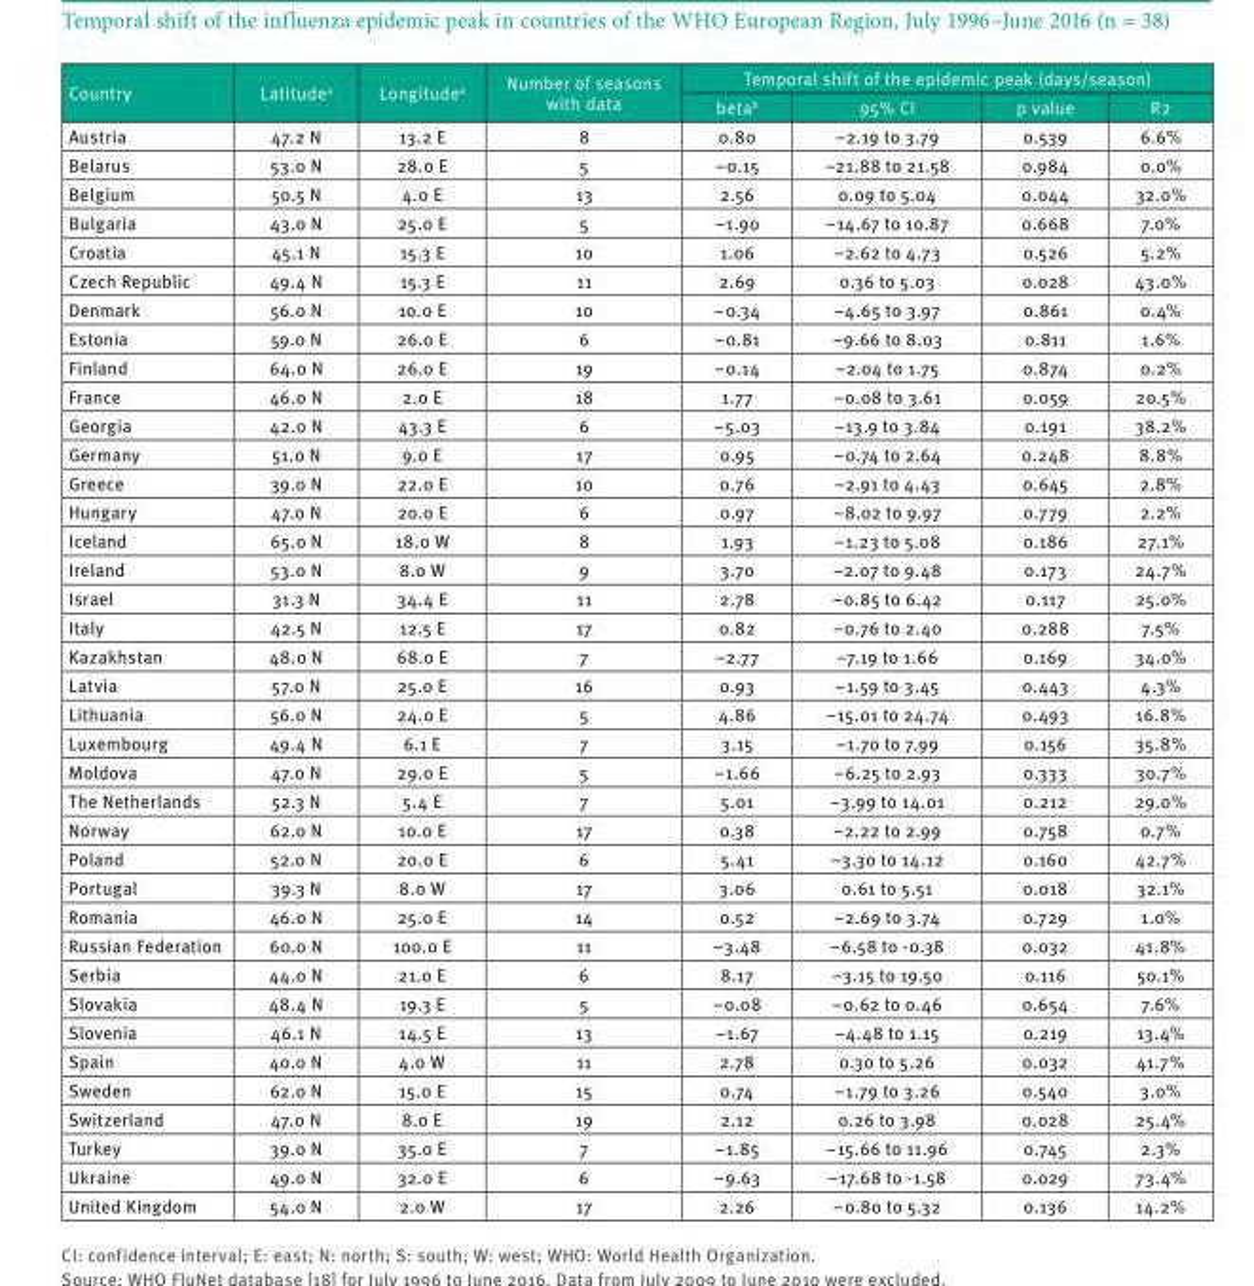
<table><thead><tr><td rowspan="2">Country</td><td rowspan="2">Latitude<sup>a</sup></td><td rowspan="2">Longitude<sup>a</sup></td><td rowspan="2">Number of seasons with data</td><td colspan="4">Temporal shift of the epidemic peak (days/season)</td></tr><tr><td>beta<sup>b</sup></td><td>95% CI</td><td>p value</td><td>R2</td></tr></thead><tbody><tr><td>Austria</td><td>47.2 N</td><td>13.2 E</td><td>8</td><td>0.80</td><td>−2.19 to 3.79</td><td>0.539</td><td>6.6%</td></tr><tr><td>Belarus</td><td>53.0 N</td><td>28.0 E</td><td>5</td><td>−0.15</td><td>−21.88 to 21.58</td><td>0.984</td><td>0.0%</td></tr><tr><td>Belgium</td><td>50.5 N</td><td>4.0 E</td><td>13</td><td>2.56</td><td>0.09 to 5.04</td><td>0.044</td><td>32.0%</td></tr><tr><td>Bulgaria</td><td>43.0 N</td><td>25.0 E</td><td>5</td><td>−1.90</td><td>−14.67 to 10.87</td><td>0.668</td><td>7.0%</td></tr><tr><td>Croatia</td><td>45.1 N</td><td>15.3 E</td><td>10</td><td>1.06</td><td>−2.62 to 4.73</td><td>0.526</td><td>5.2%</td></tr><tr><td>Czech Republic</td><td>49.4 N</td><td>15.3 E</td><td>11</td><td>2.69</td><td>0.36 to 5.03</td><td>0.028</td><td>43.0%</td></tr><tr><td>Denmark</td><td>56.0 N</td><td>10.0 E</td><td>10</td><td>−0.34</td><td>−4.65 to 3.97</td><td>0.861</td><td>0.4%</td></tr><tr><td>Estonia</td><td>59.0 N</td><td>26.0 E</td><td>6</td><td>−0.81</td><td>−9.66 to 8.03</td><td>0.811</td><td>1.6%</td></tr><tr><td>Finland</td><td>64.0 N</td><td>26.0 E</td><td>19</td><td>−0.14</td><td>−2.04 to 1.75</td><td>0.874</td><td>0.2%</td></tr><tr><td>France</td><td>46.0 N</td><td>2.0 E</td><td>18</td><td>1.77</td><td>−0.08 to 3.61</td><td>0.059</td><td>20.5%</td></tr><tr><td>Georgia</td><td>42.0 N</td><td>43.3 E</td><td>6</td><td>−5.03</td><td>−13.9 to 3.84</td><td>0.191</td><td>38.2%</td></tr><tr><td>Germany</td><td>51.0 N</td><td>9.0 E</td><td>17</td><td>0.95</td><td>−0.74 to 2.64</td><td>0.248</td><td>8.8%</td></tr><tr><td>Greece</td><td>39.0 N</td><td>22.0 E</td><td>10</td><td>0.76</td><td>−2.91 to 4.43</td><td>0.645</td><td>2.8%</td></tr><tr><td>Hungary</td><td>47.0 N</td><td>20.0 E</td><td>6</td><td>0.97</td><td>−8.02 to 9.97</td><td>0.779</td><td>2.2%</td></tr><tr><td>Iceland</td><td>65.0 N</td><td>18.0 W</td><td>8</td><td>1.93</td><td>−1.23 to 5.08</td><td>0.186</td><td>27.1%</td></tr><tr><td>Ireland</td><td>53.0 N</td><td>8.0 W</td><td>9</td><td>3.70</td><td>−2.07 to 9.48</td><td>0.173</td><td>24.7%</td></tr><tr><td>Israel</td><td>31.3 N</td><td>34.4 E</td><td>11</td><td>2.78</td><td>−0.85 to 6.42</td><td>0.117</td><td>25.0%</td></tr><tr><td>Italy</td><td>42.5 N</td><td>12.5 E</td><td>17</td><td>0.82</td><td>−0.76 to 2.40</td><td>0.288</td><td>7.5%</td></tr><tr><td>Kazakhstan</td><td>48.0 N</td><td>68.0 E</td><td>7</td><td>−2.77</td><td>−7.19 to 1.66</td><td>0.169</td><td>34.0%</td></tr><tr><td>Latvia</td><td>57.0 N</td><td>25.0 E</td><td>16</td><td>0.93</td><td>−1.59 to 3.45</td><td>0.443</td><td>4.3%</td></tr><tr><td>Lithuania</td><td>56.0 N</td><td>24.0 E</td><td>5</td><td>4.86</td><td>−15.01 to 24.74</td><td>0.493</td><td>16.8%</td></tr><tr><td>Luxembourg</td><td>49.4 N</td><td>6.1 E</td><td>7</td><td>3.15</td><td>−1.70 to 7.99</td><td>0.156</td><td>35.8%</td></tr><tr><td>Moldova</td><td>47.0 N</td><td>29.0 E</td><td>5</td><td>−1.66</td><td>−6.25 to 2.93</td><td>0.333</td><td>30.7%</td></tr><tr><td>The Netherlands</td><td>52.3 N</td><td>5.4 E</td><td>7</td><td>5.01</td><td>−3.99 to 14.01</td><td>0.212</td><td>29.0%</td></tr><tr><td>Norway</td><td>62.0 N</td><td>10.0 E</td><td>17</td><td>0.38</td><td>−2.22 to 2.99</td><td>0.758</td><td>0.7%</td></tr><tr><td>Poland</td><td>52.0 N</td><td>20.0 E</td><td>6</td><td>5.41</td><td>−3.30 to 14.12</td><td>0.160</td><td>42.7%</td></tr><tr><td>Portugal</td><td>39.3 N</td><td>8.0 W</td><td>17</td><td>3.06</td><td>0.61 to 5.51</td><td>0.018</td><td>32.1%</td></tr><tr><td>Romania</td><td>46.0 N</td><td>25.0 E</td><td>14</td><td>0.52</td><td>−2.69 to 3.74</td><td>0.729</td><td>1.0%</td></tr><tr><td>Russian Federation</td><td>60.0 N</td><td>100.0 E</td><td>11</td><td>−3.48</td><td>−6.58 to -0.38</td><td>0.032</td><td>41.8%</td></tr><tr><td>Serbia</td><td>44.0 N</td><td>21.0 E</td><td>6</td><td>8.17</td><td>−3.15 to 19.50</td><td>0.116</td><td>50.1%</td></tr><tr><td>Slovakia</td><td>48.4 N</td><td>19.3 E</td><td>5</td><td>−0.08</td><td>−0.62 to 0.46</td><td>0.654</td><td>7.6%</td></tr><tr><td>Slovenia</td><td>46.1 N</td><td>14.5 E</td><td>13</td><td>−1.67</td><td>−4.48 to 1.15</td><td>0.219</td><td>13.4%</td></tr><tr><td>Spain</td><td>40.0 N</td><td>4.0 W</td><td>11</td><td>2.78</td><td>0.30 to 5.26</td><td>0.032</td><td>41.7%</td></tr><tr><td>Sweden</td><td>62.0 N</td><td>15.0 E</td><td>15</td><td>0.74</td><td>−1.79 to 3.26</td><td>0.540</td><td>3.0%</td></tr><tr><td>Switzerland</td><td>47.0 N</td><td>8.0 E</td><td>19</td><td>2.12</td><td>0.26 to 3.98</td><td>0.028</td><td>25.4%</td></tr><tr><td>Turkey</td><td>39.0 N</td><td>35.0 E</td><td>7</td><td>−1.85</td><td>−15.66 to 11.96</td><td>0.745</td><td>2.3%</td></tr><tr><td>Ukraine</td><td>49.0 N</td><td>32.0 E</td><td>6</td><td>−9.63</td><td>−17.68 to -1.58</td><td>0.029</td><td>73.4%</td></tr><tr><td>United Kingdom</td><td>54.0 N</td><td>2.0 W</td><td>17</td><td>2.26</td><td>−0.80 to 5.32</td><td>0.136</td><td>14.2%</td></tr></tbody></table>